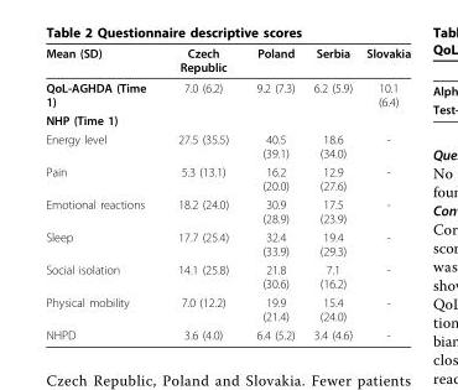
<table><thead><tr><td>Mean (SD)</td><td>Czech Republic</td><td>Poland</td><td>Serbia</td><td>Slovakia</td></tr></thead><tbody><tr><td>QoL-AGHDA (Time 1)</td><td>7.0 (6.2)</td><td>9.2 (7.3)</td><td>6.2 (5.9)</td><td>10.1 (6.4)</td></tr><tr><td colspan="5">NHP (Time 1)</td></tr><tr><td>Energy level</td><td>27.5 (35.5)</td><td>40.5 (39.1)</td><td>18.6 (34.0)</td><td>-</td></tr><tr><td>Pain</td><td>5.3 (13.1)</td><td>16.2 (20.0)</td><td>12.9 (27.6)</td><td>-</td></tr><tr><td>Emotional reactions</td><td>18.2 (24.0)</td><td>30.9 (28.9)</td><td>17.5 (23.9)</td><td>-</td></tr><tr><td>Sleep</td><td>17.7 (25.4)</td><td>32.4 (33.9)</td><td>19.4 (29.3)</td><td>-</td></tr><tr><td>Social isolation</td><td>14.1 (25.8)</td><td>21.8 (30.6)</td><td>7.1 (16.2)</td><td>-</td></tr><tr><td>Physical mobility</td><td>7.0 (12.2)</td><td>19.9 (21.4)</td><td>15.4 (24.0)</td><td>-</td></tr><tr><td>NHPD</td><td>3.6 (4.0)</td><td>6.4 (5.2)</td><td>3.4 (4.6)</td><td>-</td></tr></tbody></table>